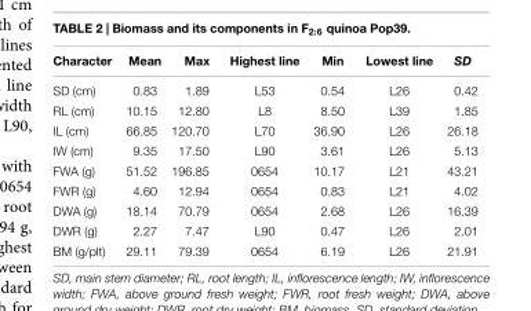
<table><thead><tr><td>Character</td><td>Mean</td><td>Max</td><td>Highest line</td><td>Min</td><td>Lowest line</td><td>SD</td></tr></thead><tbody><tr><td>SD (cm)</td><td>0.83</td><td>1.89</td><td>L53</td><td>0.54</td><td>L26</td><td>0.42</td></tr><tr><td>RL (cm)</td><td>10.15</td><td>12.80</td><td>L8</td><td>8.50</td><td>L39</td><td>1.85</td></tr><tr><td>IL (cm)</td><td>66.85</td><td>120.70</td><td>L70</td><td>36.90</td><td>L26</td><td>26.18</td></tr><tr><td>IW (cm)</td><td>9.35</td><td>17.50</td><td>L90</td><td>3.61</td><td>L26</td><td>5.13</td></tr><tr><td>FWA (g)</td><td>51.52</td><td>196.85</td><td>0654</td><td>10.17</td><td>L21</td><td>43.21</td></tr><tr><td>FWR (g)</td><td>4.60</td><td>12.94</td><td>0654</td><td>0.83</td><td>L21</td><td>4.02</td></tr><tr><td>DWA (g)</td><td>18.14</td><td>70.79</td><td>0654</td><td>2.68</td><td>L26</td><td>16.39</td></tr><tr><td>DWR (g)</td><td>2.27</td><td>7.47</td><td>L90</td><td>0.47</td><td>L26</td><td>2.01</td></tr><tr><td>BM (g/plt)</td><td>29.11</td><td>79.39</td><td>0654</td><td>6.19</td><td>L26</td><td>21.91</td></tr></tbody></table>